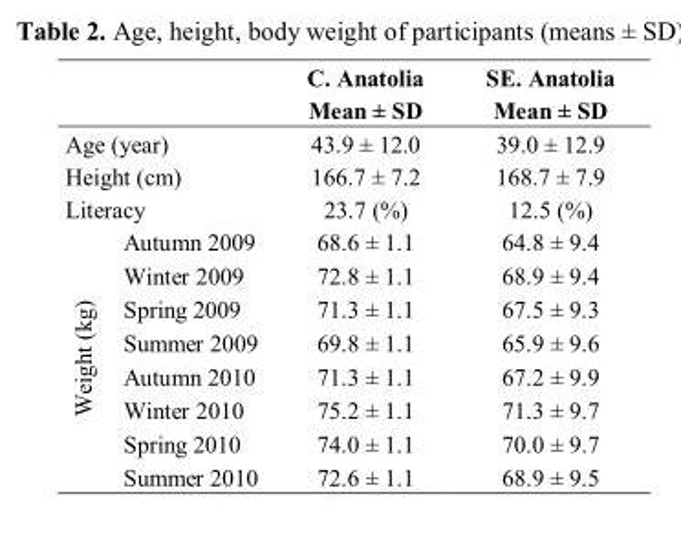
<table><thead><tr><td rowspan="2"></td><td rowspan="2"></td><td rowspan="2">C. Anatolia Mean ± SD</td><td rowspan="2">SE. Anatolia Mean ± SD</td></tr><tr></tr></thead><tbody><tr><td colspan="2">Age (year)</td><td>43.9 ± 12.0</td><td>39.0 ± 12.9</td></tr><tr><td colspan="2">Height (cm)</td><td>166.7 ± 7.2</td><td>168.7 ± 7.9</td></tr><tr><td colspan="2">Literacy</td><td>23.7 (%)</td><td>12.5 (%)</td></tr><tr><td rowspan="8">Weight (kg)</td><td>Autumn 2009</td><td>68.6 ± 1.1</td><td>64.8 ± 9.4</td></tr><tr><td>Winter 2009</td><td>72.8 ± 1.1</td><td>68.9 ± 9.4</td></tr><tr><td>Spring 2009</td><td>71.3 ± 1.1</td><td>67.5 ± 9.3</td></tr><tr><td>Summer 2009</td><td>69.8 ± 1.1</td><td>65.9 ± 9.6</td></tr><tr><td>Autumn 2010</td><td>71.3 ± 1.1</td><td>67.2 ± 9.9</td></tr><tr><td>Winter 2010</td><td>75.2 ± 1.1</td><td>71.3 ± 9.7</td></tr><tr><td>Spring 2010</td><td>74.0 ± 1.1</td><td>70.0 ± 9.7</td></tr><tr><td>Summer 2010</td><td>72.6 ± 1.1</td><td>68.9 ± 9.5</td></tr></tbody></table>